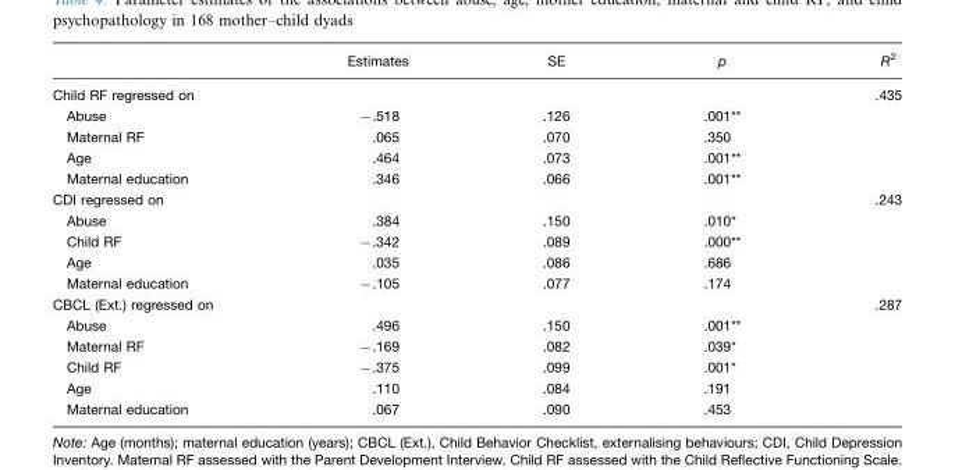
<table><thead><tr><td></td><td>Estimates</td><td>SE</td><td>p</td><td>R<sup>2</sup></td></tr></thead><tbody><tr><td>Child RF regressed on</td><td></td><td></td><td></td><td>.435</td></tr><tr><td>Abuse</td><td>−.518</td><td>.126</td><td>.001**</td><td></td></tr><tr><td>Maternal RF</td><td>.065</td><td>.070</td><td>.350</td><td></td></tr><tr><td>Age</td><td>.464</td><td>.073</td><td>.001**</td><td></td></tr><tr><td>Maternal education</td><td>.346</td><td>.066</td><td>.001**</td><td></td></tr><tr><td>CDI regressed on</td><td></td><td></td><td></td><td>.243</td></tr><tr><td>Abuse</td><td>.384</td><td>.150</td><td>.010*</td><td></td></tr><tr><td>Child RF</td><td>−.342</td><td>.089</td><td>.000**</td><td></td></tr><tr><td>Age</td><td>.035</td><td>.086</td><td>.686</td><td></td></tr><tr><td>Maternal education</td><td>−.105</td><td>.077</td><td>.174</td><td></td></tr><tr><td>CBCL (Ext.) regressed on</td><td></td><td></td><td></td><td>.287</td></tr><tr><td>Abuse</td><td>.496</td><td>.150</td><td>.001**</td><td></td></tr><tr><td>Maternal RF</td><td>−.169</td><td>.082</td><td>.039*</td><td></td></tr><tr><td>Child RF</td><td>−.375</td><td>.099</td><td>.001*</td><td></td></tr><tr><td>Age</td><td>.110</td><td>.084</td><td>.191</td><td></td></tr><tr><td>Maternal education</td><td>.067</td><td>.090</td><td>.453</td><td></td></tr></tbody></table>